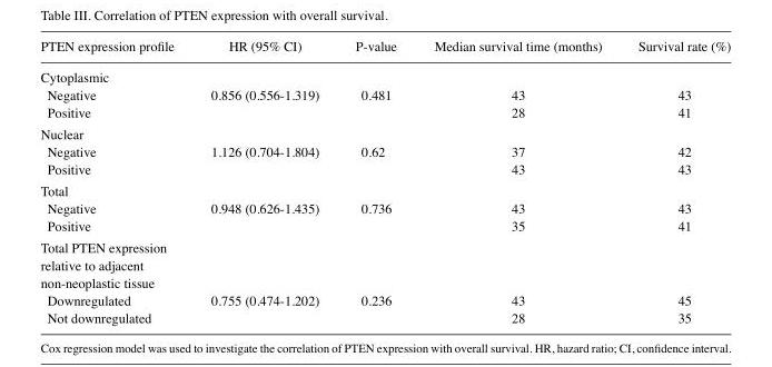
<table><thead><tr><td>PTEN expression profile</td><td>HR (95% CI)</td><td>P‑value</td><td>Median survival time (months)</td><td>Survival rate (%)</td></tr></thead><tbody><tr><td colspan="5">Cytoplasmic</td></tr><tr><td>Negative</td><td>0.856 (0.556‑1.319)</td><td>0.481</td><td>43</td><td>43</td></tr><tr><td>Positive</td><td></td><td></td><td>28</td><td>41</td></tr><tr><td colspan="5">Nuclear</td></tr><tr><td>Negative</td><td>1.126 (0.704‑1.804)</td><td>0.62</td><td>37</td><td>42</td></tr><tr><td>Positive</td><td></td><td></td><td>43</td><td>43</td></tr><tr><td colspan="5">Total</td></tr><tr><td>Negative</td><td>0.948 (0.626‑1.435)</td><td>0.736</td><td>43</td><td>43</td></tr><tr><td>Positive</td><td></td><td></td><td>35</td><td>41</td></tr><tr><td colspan="5">Total PTEN expression relative to adjacent non-neoplastic tissue</td></tr><tr><td>Downregulated</td><td>0.755 (0.474-1.202)</td><td>0.236</td><td>43</td><td>45</td></tr><tr><td>Not downregulated</td><td></td><td></td><td>28</td><td>35</td></tr></tbody></table>